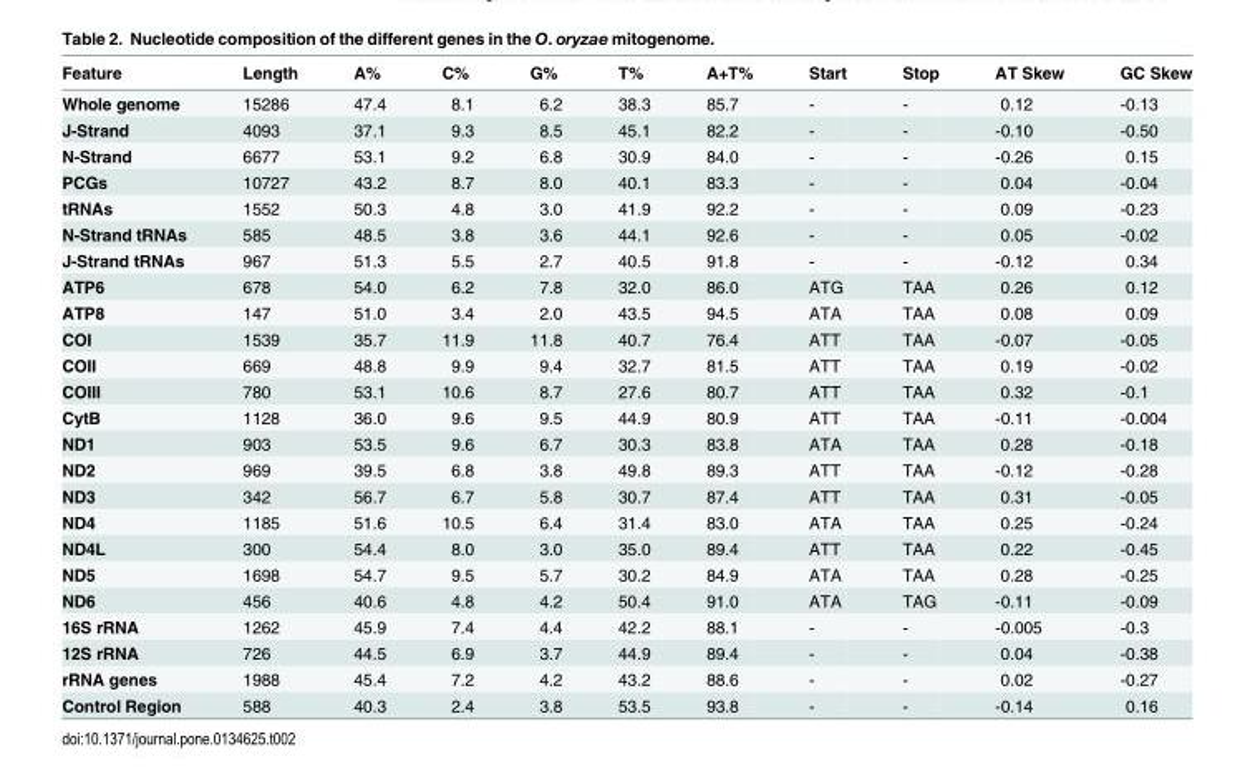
<table><thead><tr><td>Feature</td><td>Length</td><td>A%</td><td>C%</td><td>G%</td><td>T%</td><td>A+T%</td><td>Start</td><td>Stop</td><td>AT Skew</td><td>GC Skew</td></tr></thead><tbody><tr><td>Whole genome</td><td>15286</td><td>47.4</td><td>8.1</td><td>6.2</td><td>38.3</td><td>85.7</td><td>-</td><td>-</td><td>0.12</td><td>-0.13</td></tr><tr><td>J-Strand</td><td>4093</td><td>37.1</td><td>9.3</td><td>8.5</td><td>45.1</td><td>82.2</td><td>-</td><td>-</td><td>-0.10</td><td>-0.50</td></tr><tr><td>N-Strand</td><td>6677</td><td>53.1</td><td>9.2</td><td>6.8</td><td>30.9</td><td>84.0</td><td>-</td><td>-</td><td>-0.26</td><td>0.15</td></tr><tr><td>PCGs</td><td>10727</td><td>43.2</td><td>8.7</td><td>8.0</td><td>40.1</td><td>83.3</td><td>-</td><td>-</td><td>0.04</td><td>-0.04</td></tr><tr><td>tRNAs</td><td>1552</td><td>50.3</td><td>4.8</td><td>3.0</td><td>41.9</td><td>92.2</td><td>-</td><td>-</td><td>0.09</td><td>-0.23</td></tr><tr><td>N-Strand tRNAs</td><td>585</td><td>48.5</td><td>3.8</td><td>3.6</td><td>44.1</td><td>92.6</td><td>-</td><td>-</td><td>0.05</td><td>-0.02</td></tr><tr><td>J-Strand tRNAs</td><td>967</td><td>51.3</td><td>5.5</td><td>2.7</td><td>40.5</td><td>91.8</td><td>-</td><td>-</td><td>-0.12</td><td>0.34</td></tr><tr><td>ATP6</td><td>678</td><td>54.0</td><td>6.2</td><td>7.8</td><td>32.0</td><td>86.0</td><td>ATG</td><td>TAA</td><td>0.26</td><td>0.12</td></tr><tr><td>ATP8</td><td>147</td><td>51.0</td><td>3.4</td><td>2.0</td><td>43.5</td><td>94.5</td><td>ATA</td><td>TAA</td><td>0.08</td><td>0.09</td></tr><tr><td>COI</td><td>1539</td><td>35.7</td><td>11.9</td><td>11.8</td><td>40.7</td><td>76.4</td><td>ATT</td><td>TAA</td><td>-0.07</td><td>-0.05</td></tr><tr><td>COII</td><td>669</td><td>48.8</td><td>9.9</td><td>9.4</td><td>32.7</td><td>81.5</td><td>ATT</td><td>TAA</td><td>0.19</td><td>-0.02</td></tr><tr><td>COIII</td><td>780</td><td>53.1</td><td>10.6</td><td>8.7</td><td>27.6</td><td>80.7</td><td>ATT</td><td>TAA</td><td>0.32</td><td>-0.1</td></tr><tr><td>CytB</td><td>1128</td><td>36.0</td><td>9.6</td><td>9.5</td><td>44.9</td><td>80.9</td><td>ATT</td><td>TAA</td><td>-0.11</td><td>-0.004</td></tr><tr><td>ND1</td><td>903</td><td>53.5</td><td>9.6</td><td>6.7</td><td>30.3</td><td>83.8</td><td>ATA</td><td>TAA</td><td>0.28</td><td>-0.18</td></tr><tr><td>ND2</td><td>969</td><td>39.5</td><td>6.8</td><td>3.8</td><td>49.8</td><td>89.3</td><td>ATT</td><td>TAA</td><td>-0.12</td><td>-0.28</td></tr><tr><td>ND3</td><td>342</td><td>56.7</td><td>6.7</td><td>5.8</td><td>30.7</td><td>87.4</td><td>ATT</td><td>TAA</td><td>0.31</td><td>-0.05</td></tr><tr><td>ND4</td><td>1185</td><td>51.6</td><td>10.5</td><td>6.4</td><td>31.4</td><td>83.0</td><td>ATA</td><td>TAA</td><td>0.25</td><td>-0.24</td></tr><tr><td>ND4L</td><td>300</td><td>54.4</td><td>8.0</td><td>3.0</td><td>35.0</td><td>89.4</td><td>ATT</td><td>TAA</td><td>0.22</td><td>-0.45</td></tr><tr><td>ND5</td><td>1698</td><td>54.7</td><td>9.5</td><td>5.7</td><td>30.2</td><td>84.9</td><td>ATA</td><td>TAA</td><td>0.28</td><td>-0.25</td></tr><tr><td>ND6</td><td>456</td><td>40.6</td><td>4.8</td><td>4.2</td><td>50.4</td><td>91.0</td><td>ATA</td><td>TAG</td><td>-0.11</td><td>-0.09</td></tr><tr><td>16S rRNA</td><td>1262</td><td>45.9</td><td>7.4</td><td>4.4</td><td>42.2</td><td>88.1</td><td>-</td><td>-</td><td>-0.005</td><td>-0.3</td></tr><tr><td>12S rRNA</td><td>726</td><td>44.5</td><td>6.9</td><td>3.7</td><td>44.9</td><td>89.4</td><td>-</td><td>-</td><td>0.04</td><td>-0.38</td></tr><tr><td>rRNA genes</td><td>1988</td><td>45.4</td><td>7.2</td><td>4.2</td><td>43.2</td><td>88.6</td><td>-</td><td>-</td><td>0.02</td><td>-0.27</td></tr><tr><td>Control Region</td><td>588</td><td>40.3</td><td>2.4</td><td>3.8</td><td>53.5</td><td>93.8</td><td>-</td><td>-</td><td>-0.14</td><td>0.16</td></tr></tbody></table>